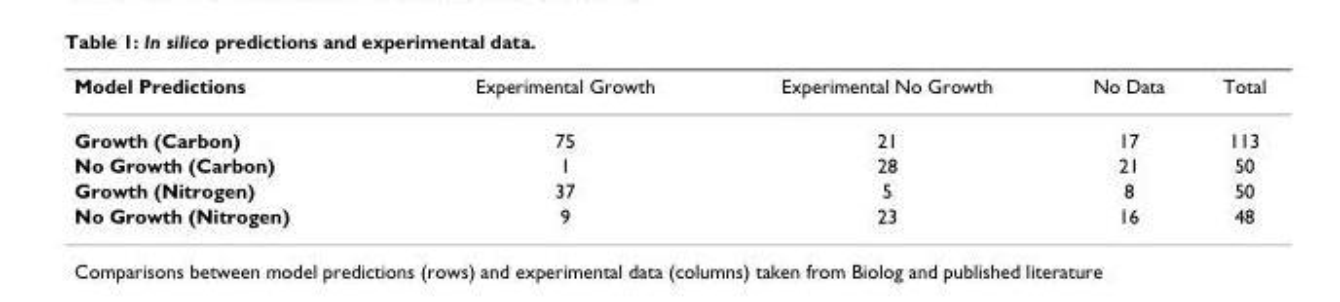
<table><thead><tr><td>Model Predictions</td><td>Experimental Growth</td><td>Experimental No Growth</td><td>No Data</td><td>Total</td></tr></thead><tbody><tr><td>Growth (Carbon)</td><td>75</td><td>21</td><td>17</td><td>113</td></tr><tr><td>No Growth (Carbon)</td><td>1</td><td>28</td><td>21</td><td>50</td></tr><tr><td>Growth (Nitrogen)</td><td>37</td><td>5</td><td>8</td><td>50</td></tr><tr><td>No Growth (Nitrogen)</td><td>9</td><td>23</td><td>16</td><td>48</td></tr></tbody></table>